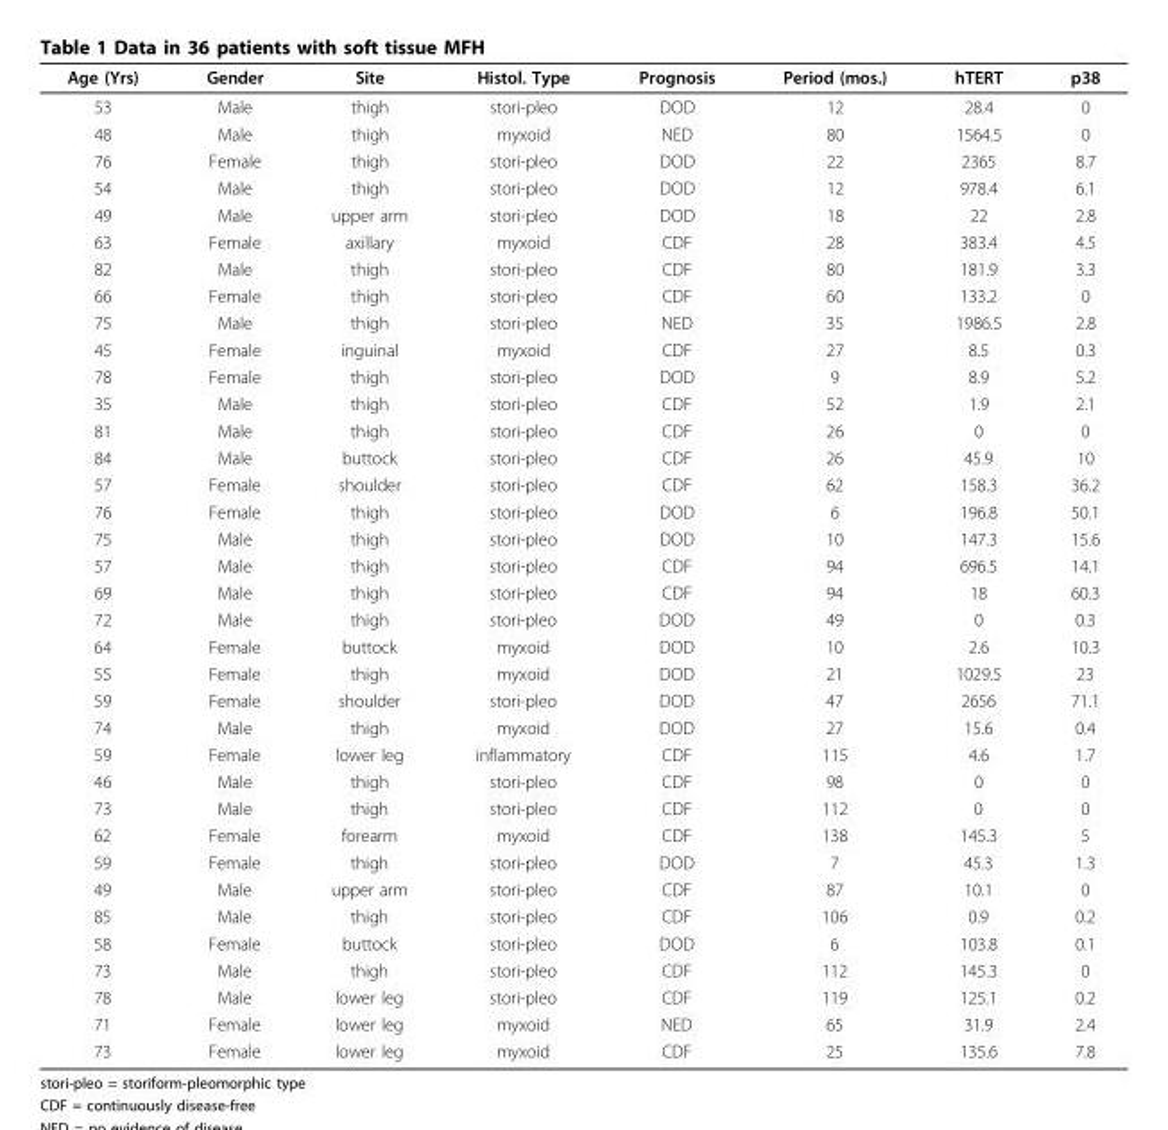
<table><thead><tr><td>Age (Yrs)</td><td>Gender</td><td>Site</td><td>Histol. Type</td><td>Prognosis</td><td>Period (mos.)</td><td>hTERT</td><td>p38</td></tr></thead><tbody><tr><td>53</td><td>Male</td><td>thigh</td><td>stori-pleo</td><td>DOD</td><td>12</td><td>28.4</td><td>0</td></tr><tr><td>48</td><td>Male</td><td>thigh</td><td>myxoid</td><td>NED</td><td>80</td><td>1564.5</td><td>0</td></tr><tr><td>76</td><td>Female</td><td>thigh</td><td>stori-pleo</td><td>DOD</td><td>22</td><td>2365</td><td>8.7</td></tr><tr><td>54</td><td>Male</td><td>thigh</td><td>stori-pleo</td><td>DOD</td><td>12</td><td>978.4</td><td>6.1</td></tr><tr><td>49</td><td>Male</td><td>upper arm</td><td>stori-pleo</td><td>DOD</td><td>18</td><td>22</td><td>2.8</td></tr><tr><td>63</td><td>Female</td><td>axillary</td><td>myxoid</td><td>CDF</td><td>28</td><td>383.4</td><td>4.5</td></tr><tr><td>82</td><td>Male</td><td>thigh</td><td>stori-pleo</td><td>CDF</td><td>80</td><td>181.9</td><td>3.3</td></tr><tr><td>66</td><td>Female</td><td>thigh</td><td>stori-pleo</td><td>CDF</td><td>60</td><td>133.2</td><td>0</td></tr><tr><td>75</td><td>Male</td><td>thigh</td><td>stori-pleo</td><td>NED</td><td>35</td><td>1986.5</td><td>2.8</td></tr><tr><td>45</td><td>Female</td><td>inguinal</td><td>myxoid</td><td>CDF</td><td>27</td><td>8.5</td><td>0.3</td></tr><tr><td>78</td><td>Female</td><td>thigh</td><td>stori-pleo</td><td>DOD</td><td>9</td><td>8.9</td><td>5.2</td></tr><tr><td>35</td><td>Male</td><td>thigh</td><td>stori-pleo</td><td>CDF</td><td>52</td><td>1.9</td><td>2.1</td></tr><tr><td>81</td><td>Male</td><td>thigh</td><td>stori-pleo</td><td>CDF</td><td>26</td><td>0</td><td>0</td></tr><tr><td>84</td><td>Male</td><td>buttock</td><td>stori-pleo</td><td>CDF</td><td>26</td><td>45.9</td><td>10</td></tr><tr><td>57</td><td>Female</td><td>shoulder</td><td>stori-pleo</td><td>CDF</td><td>62</td><td>158.3</td><td>36.2</td></tr><tr><td>76</td><td>Female</td><td>thigh</td><td>stori-pleo</td><td>DOD</td><td>6</td><td>196.8</td><td>50.1</td></tr><tr><td>75</td><td>Male</td><td>thigh</td><td>stori-pleo</td><td>DOD</td><td>10</td><td>147.3</td><td>15.6</td></tr><tr><td>57</td><td>Male</td><td>thigh</td><td>stori-pleo</td><td>CDF</td><td>94</td><td>696.5</td><td>14.1</td></tr><tr><td>69</td><td>Male</td><td>thigh</td><td>stori-pleo</td><td>CDF</td><td>94</td><td>18</td><td>60.3</td></tr><tr><td>72</td><td>Male</td><td>thigh</td><td>stori-pleo</td><td>DOD</td><td>49</td><td>0</td><td>0.3</td></tr><tr><td>64</td><td>Female</td><td>buttock</td><td>myxoid</td><td>DOD</td><td>10</td><td>2.6</td><td>10.3</td></tr><tr><td>55</td><td>Female</td><td>thigh</td><td>myxoid</td><td>DOD</td><td>21</td><td>1029.5</td><td>23</td></tr><tr><td>59</td><td>Female</td><td>shoulder</td><td>stori-pleo</td><td>DOD</td><td>47</td><td>2656</td><td>71.1</td></tr><tr><td>74</td><td>Male</td><td>thigh</td><td>myxoid</td><td>DOD</td><td>27</td><td>15.6</td><td>0.4</td></tr><tr><td>59</td><td>Female</td><td>lower leg</td><td>inflammatory</td><td>CDF</td><td>115</td><td>4.6</td><td>1.7</td></tr><tr><td>46</td><td>Male</td><td>thigh</td><td>stori-pleo</td><td>CDF</td><td>98</td><td>0</td><td>0</td></tr><tr><td>73</td><td>Male</td><td>thigh</td><td>stori-pleo</td><td>CDF</td><td>112</td><td>0</td><td>0</td></tr><tr><td>62</td><td>Female</td><td>forearm</td><td>myxoid</td><td>CDF</td><td>138</td><td>145.3</td><td>5</td></tr><tr><td>59</td><td>Female</td><td>thigh</td><td>stori-pleo</td><td>DOD</td><td>7</td><td>45.3</td><td>1.3</td></tr><tr><td>49</td><td>Male</td><td>upper arm</td><td>stori-pleo</td><td>CDF</td><td>87</td><td>10.1</td><td>0</td></tr><tr><td>85</td><td>Male</td><td>thigh</td><td>stori-pleo</td><td>CDF</td><td>106</td><td>0.9</td><td>0.2</td></tr><tr><td>58</td><td>Female</td><td>buttock</td><td>stori-pleo</td><td>DOD</td><td>6</td><td>103.8</td><td>0.1</td></tr><tr><td>73</td><td>Male</td><td>thigh</td><td>stori-pleo</td><td>CDF</td><td>112</td><td>145.3</td><td>0</td></tr><tr><td>78</td><td>Male</td><td>lower leg</td><td>stori-pleo</td><td>CDF</td><td>119</td><td>125.1</td><td>0.2</td></tr><tr><td>71</td><td>Female</td><td>lower leg</td><td>myxoid</td><td>NED</td><td>65</td><td>31.9</td><td>2.4</td></tr><tr><td>73</td><td>Female</td><td>lower leg</td><td>myxoid</td><td>CDF</td><td>25</td><td>135.6</td><td>7.8</td></tr></tbody></table>